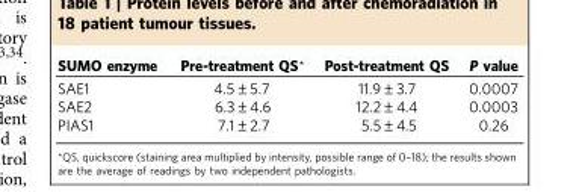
<table><thead><tr><td>SUMO enzyme</td><td>Pre-treatment QS*</td><td>Post-treatment QS</td><td>P value</td></tr></thead><tbody><tr><td>SAE1</td><td>4.5±5.7</td><td>11.9±3.7</td><td>0.0007</td></tr><tr><td>SAE2</td><td>6.3±4.6</td><td>12.2±4.4</td><td>0.0003</td></tr><tr><td>PIAS1</td><td>7.1±2.7</td><td>5.5±4.5</td><td>0.26</td></tr></tbody></table>